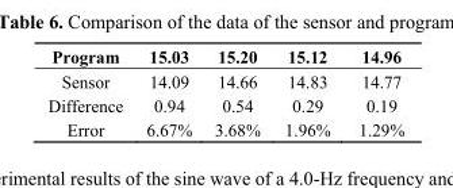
<table><thead><tr><td>Program</td><td>15.03</td><td>15.20</td><td>15.12</td><td>14.96</td></tr></thead><tbody><tr><td>Sensor</td><td>14.09</td><td>14.66</td><td>14.83</td><td>14.77</td></tr><tr><td>Difference</td><td>0.94</td><td>0.54</td><td>0.29</td><td>0.19</td></tr><tr><td>Error</td><td>6.67%</td><td>3.68%</td><td>1.96%</td><td>1.29%</td></tr></tbody></table>